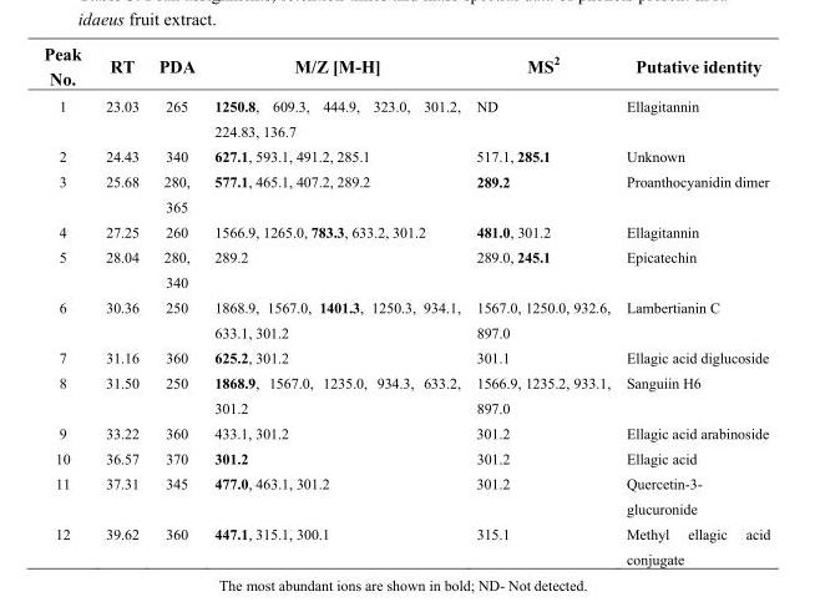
<table><thead><tr><td>Peak No.</td><td>RT</td><td>PDA</td><td>M/Z [M-H]</td><td>MS<sup>2</sup></td><td>Putative identity</td></tr></thead><tbody><tr><td>1</td><td>23.03</td><td>265</td><td>1250.8, 609.3, 444.9, 323.0, 301.2, 224.83, 136.7</td><td>ND</td><td>Ellagitannin</td></tr><tr><td>2</td><td>24.43</td><td>340</td><td>627.1, 593.1, 491.2, 285.1</td><td>517.1, 285.1</td><td>Unknown</td></tr><tr><td>3</td><td>25.68</td><td>280, 365</td><td>577.1, 465.1, 407.2, 289.2</td><td>289.2</td><td>Proanthocyanidin dimer</td></tr><tr><td>4</td><td>27.25</td><td>260</td><td>1566.9, 1265.0, 783.3, 633.2, 301.2</td><td>481.0, 301.2</td><td>Ellagitannin</td></tr><tr><td>5</td><td>28.04</td><td>280, 340</td><td>289.2</td><td>289.0, 245.1</td><td>Epicatechin</td></tr><tr><td>6</td><td>30.36</td><td>250</td><td>1868.9, 1567.0, 1401.3, 1250.3, 934.1, 633.1, 301.2</td><td>1567.0, 1250.0, 932.6, 897.0</td><td>Lambertianin C</td></tr><tr><td>7</td><td>31.16</td><td>360</td><td>625.2, 301.2</td><td>301.1</td><td>Ellagic acid diglucoside</td></tr><tr><td>8</td><td>31.50</td><td>250</td><td>1868.9, 1567.0, 1235.0, 934.3, 633.2, 301.2</td><td>1566.9, 1235.2, 933.1, 897.0</td><td>Sanguiin H6</td></tr><tr><td>9</td><td>33.22</td><td>360</td><td>433.1, 301.2</td><td>301.2</td><td>Ellagic acid arabinoside</td></tr><tr><td>10</td><td>36.57</td><td>370</td><td>301.2</td><td>301.2</td><td>Ellagic acid</td></tr><tr><td>11</td><td>37.31</td><td>345</td><td>477.0, 463.1, 301.2</td><td>301.2</td><td>Quercetin-3- glucuronide</td></tr><tr><td>12</td><td>39.62</td><td>360</td><td>447.1, 315.1, 300.1</td><td>315.1</td><td>Methyl ellagic acid conjugate</td></tr></tbody></table>